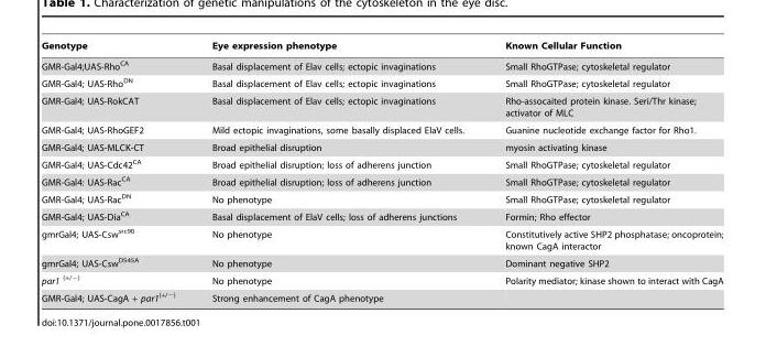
<table><thead><tr><td>Genotype</td><td>Eye expression phenotype</td><td>Known Cellular Function</td></tr></thead><tbody><tr><td>GMR-Gal4;UAS-Rho<sup>CA</sup></td><td>Basal displacement of Elav cells; ectopic invaginations</td><td>Small RhoGTPase; cytoskeletal regulator</td></tr><tr><td>GMR-Gal4; UAS-Rho<sup>DN</sup></td><td>Basal displacement of Elav cells; ectopic invaginations</td><td>Small RhoGTPase; cytoskeletal regulator</td></tr><tr><td>GMR-Gal4; UAS-RokCAT</td><td>Basal displacement of Elav cells; ectopic invaginations</td><td>Rho-assocaited protein kinase. Seri/Thr kinase; activator of MLC</td></tr><tr><td>GMR-Gal4; UAS-RhoGEF2</td><td>Mild ectopic invaginations, some basally displaced ElaV cells.</td><td>Guanine nucleotide exchange factor for Rho1.</td></tr><tr><td>GMR-Gal4; UAS-MLCK-CT</td><td>Broad epithelial disruption</td><td>myosin activating kinase</td></tr><tr><td>GMR-Gal4; UAS-Cdc42<sup>CA</sup></td><td>Broad epithelial disruption; loss of adherens junction</td><td>Small RhoGTPase; cytoskeletal regulator</td></tr><tr><td>GMR-Gal4: UAS-Rac<sup>CA</sup></td><td>Broad epithelial disruption; loss of adherens junction</td><td>Small RhoGTPase; cytoskeletal regulator</td></tr><tr><td>GMR-Gal4; UAS-Rac<sup>DN</sup></td><td>No phenotype</td><td>Small RhoGTPase; cytoskeletal regulator</td></tr><tr><td>GMR-Gal4; UAS-Dia<sup>CA</sup></td><td>Basal displacement of ElaV cells; loss of adherens junctions</td><td>Formin; Rho effector</td></tr><tr><td>gmrGal4; UAS-Csw<sup>src90</sup></td><td>No phenotype</td><td>Constitutively active SHP2 phosphatase; oncoprotein; known CagA interactor</td></tr><tr><td>gmrGal4; UAS-Csw<sup>D545A</sup></td><td>No phenotype</td><td>Dominant negative SHP2</td></tr><tr><td>par1 <sup>(+/−)</sup></td><td>No phenotype</td><td>Polarity mediator; kinase shown to interact with CagA</td></tr><tr><td>GMR-Gal4; UAS-CagA + par1<sup>(+/−)</sup></td><td>Strong enhancement of CagA phenotype</td><td></td></tr></tbody></table>